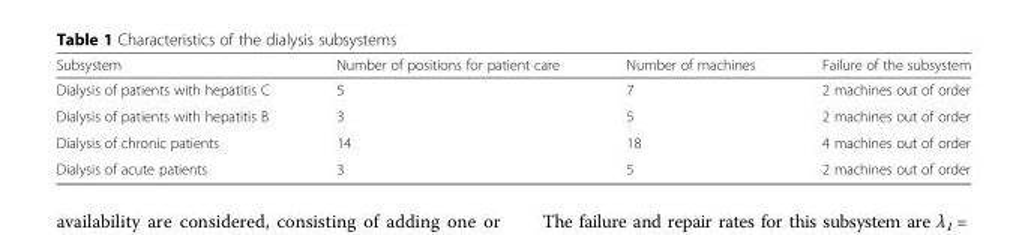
<table><thead><tr><td>Subsystem</td><td>Number of positions for patient care</td><td>Number of machines</td><td>Failure of the subsystem</td></tr></thead><tbody><tr><td>Dialysis of patients with hepatitis C</td><td>5</td><td>7</td><td>2 machines out of order</td></tr><tr><td>Dialysis of patients with hepatitis B</td><td>3</td><td>5</td><td>2 machines out of order</td></tr><tr><td>Dialysis of chronic patients</td><td>14</td><td>18</td><td>4 machines out of order</td></tr><tr><td>Dialysis of acute patients</td><td>3</td><td>5</td><td>2 machines out of order</td></tr></tbody></table>